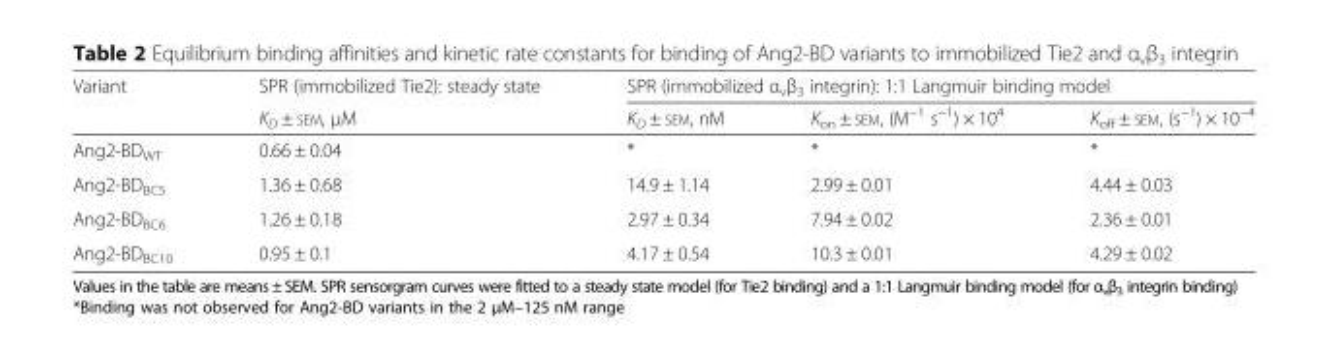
<table><thead><tr><td rowspan="2">Variant</td><td rowspan="2">SPR (immobilized Tie2): steady state K<sub>D</sub> ± SEM, μM</td><td colspan="3">SPR (immobilized α<sub>v</sub>β<sub>3</sub> integrin): 1:1 Langmuir binding model</td></tr><tr><td>K<sub>D</sub> ± SEM, nM</td><td>K<sub>on</sub> ± SEM, (M<sup>−1</sup> s<sup>−1</sup>) × 10<sup>4</sup></td><td>K<sub>off</sub> ± SEM, (s<sup>−1</sup>) × 10<sup>−4</sup></td></tr></thead><tbody><tr><td>Ang2-BD<sub>WT</sub></td><td>0.66 ± 0.04</td><td>*</td><td>*</td><td>*</td></tr><tr><td>Ang2-BD<sub>BC5</sub></td><td>1.36 ± 0.68</td><td>14.9 ± 1.14</td><td>2.99 ± 0.01</td><td>4.44 ± 0.03</td></tr><tr><td>Ang2-BD<sub>BC6</sub></td><td>1.26 ± 0.18</td><td>2.97 ± 0.34</td><td>7.94 ± 0.02</td><td>2.36 ± 0.01</td></tr><tr><td>Ang2-BD<sub>BC10</sub></td><td>0.95 ± 0.1</td><td>4.17 ± 0.54</td><td>10.3 ± 0.01</td><td>4.29 ± 0.02</td></tr></tbody></table>